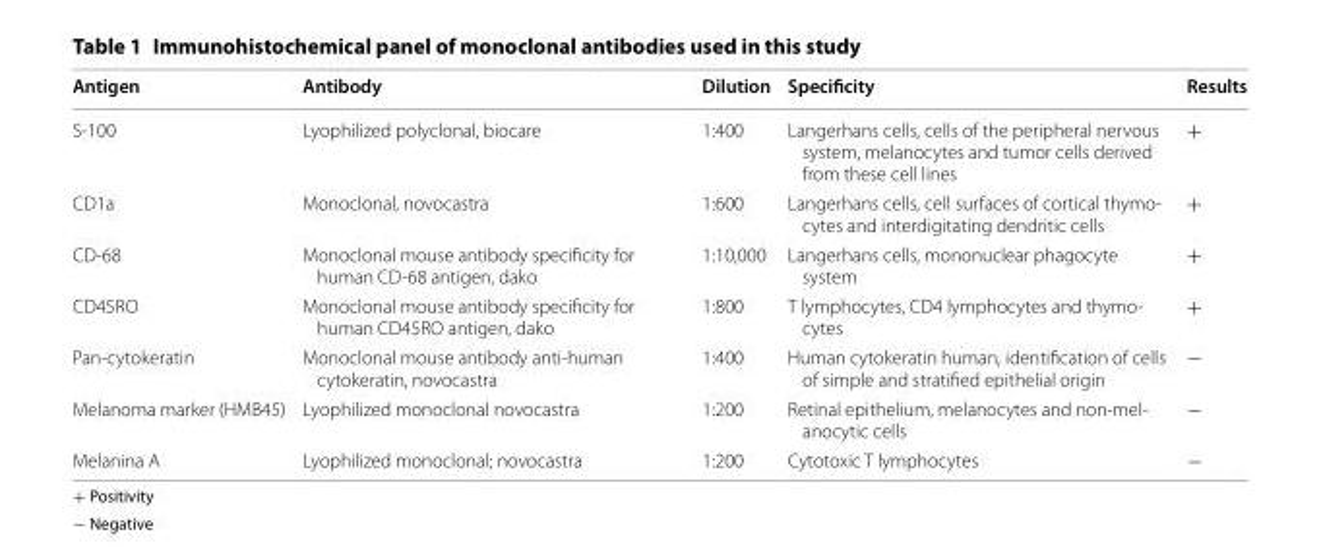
<table><thead><tr><td>Antigen</td><td>Antibody</td><td>Dilution</td><td>Specificity</td><td>Results</td></tr></thead><tbody><tr><td>S-100</td><td>Lyophilized polyclonal, biocare</td><td>1:400</td><td>Langerhans cells, cells of the peripheral nervous system, melanocytes and tumor cells derived from these cell lines</td><td>+</td></tr><tr><td>CD1a</td><td>Monoclonal, novocastra</td><td>1:600</td><td>Langerhans cells, cell surfaces of cortical thymo- cytes and interdigitating dendritic cells</td><td>+</td></tr><tr><td>CD-68</td><td>Monoclonal mouse antibody specificity for human CD-68 antigen, dako</td><td>1:10,000</td><td>Langerhans cells, mononuclear phagocyte system</td><td>+</td></tr><tr><td>CD45RO</td><td>Monoclonal mouse antibody specificity for human CD45RO antigen, dako</td><td>1:800</td><td>T lymphocytes, CD4 lymphocytes and thymo- cytes</td><td>+</td></tr><tr><td>Pan-cytokeratin</td><td>Monoclonal mouse antibody anti-human cytokeratin, novocastra</td><td>1:400</td><td>Human cytokeratin human, identification of cells of simple and stratified epithelial origin</td><td>−</td></tr><tr><td>Melanoma marker (HMB45)</td><td>Lyophilized monoclonal novocastra</td><td>1:200</td><td>Retinal epithelium, melanocytes and non-mel- anocytic cells</td><td>−</td></tr><tr><td>Melanina A</td><td>Lyophilized monoclonal; novocastra</td><td>1:200</td><td>Cytotoxic T lymphocytes</td><td>−</td></tr></tbody></table>